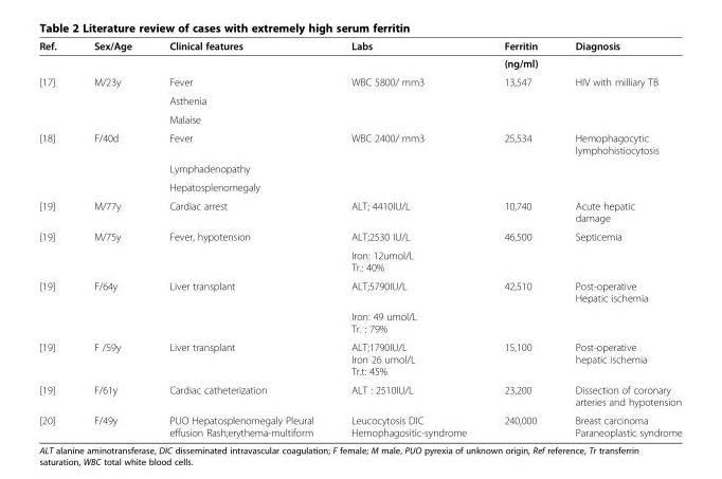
<table><thead><tr><td>Ref.</td><td>Sex/Age</td><td>Clinical features</td><td>Labs</td><td>Ferritin</td><td>Diagnosis</td></tr></thead><tbody><tr><td></td><td></td><td></td><td></td><td>(ng/ml)</td><td></td></tr><tr><td rowspan="3">[17]</td><td>M/23y</td><td>Fever</td><td>WBC 5800/ mm3</td><td>13,547</td><td>HIV with milliary TB</td></tr><tr><td></td><td>Asthenia</td><td></td><td></td><td></td></tr><tr><td></td><td>Malaise</td><td></td><td></td><td></td></tr><tr><td rowspan="3">[18]</td><td>F/40d</td><td>Fever</td><td>WBC 2400/ mm3</td><td>25,534</td><td>Hemophagocytic lymphohistiocytosis</td></tr><tr><td></td><td>Lymphadenopathy</td><td></td><td></td><td></td></tr><tr><td></td><td>Hepatosplenomegaly</td><td></td><td></td><td></td></tr><tr><td>[19]</td><td>M/77y</td><td>Cardiac arrest</td><td>ALT; 4410IU/L</td><td>10,740</td><td>Acute hepatic damage</td></tr><tr><td rowspan="2">[19]</td><td>M/75y</td><td>Fever, hypotension</td><td>ALT;2530 IU/L</td><td>46,500</td><td>Septicemia</td></tr><tr><td></td><td></td><td>Iron: 12umol/L Tr.: 40%</td><td></td><td></td></tr><tr><td rowspan="2">[19]</td><td>F/64y</td><td>Liver transplant</td><td>ALT;5790IU/L</td><td>42,510</td><td>Post-operative Hepatic ischemia</td></tr><tr><td></td><td></td><td>Iron: 49 umol/L Tr. : 79%</td><td></td><td></td></tr><tr><td>[19]</td><td>F /59y</td><td>Liver transplant</td><td>ALT;1790IU/L Iron 26 umol/L Tr.t: 45%</td><td>15,100</td><td>Post-operative hepatic ischemia</td></tr><tr><td>[19]</td><td>F/61y</td><td>Cardiac catheterization</td><td>ALT : 2510IU/L</td><td>23,200</td><td>Dissection of coronary arteries and hypotension</td></tr><tr><td>[20]</td><td>F/49y</td><td>PUO Hepatosplenomegaly Pleural effusion Rash;erythema-multiform</td><td>Leucocytosis DIC Hemophagositic-syndrome</td><td>240,000</td><td>Breast carcinoma Paraneoplastic syndrome</td></tr></tbody></table>